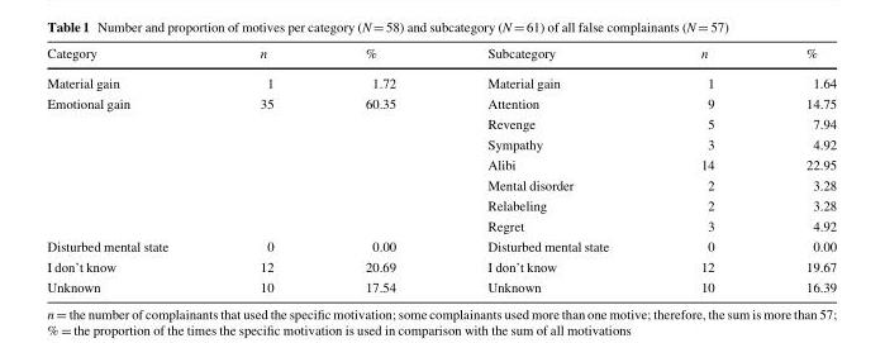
<table><thead><tr><td>Category</td><td>n</td><td>%</td><td>Subcategory</td><td>n</td><td>%</td></tr></thead><tbody><tr><td>Material gain</td><td>1</td><td>1.72</td><td>Material gain</td><td>1</td><td>1.64</td></tr><tr><td rowspan="7">Emotional gain</td><td>35</td><td>60.35</td><td>Attention</td><td>9</td><td>14.75</td></tr><tr><td></td><td></td><td>Revenge</td><td>5</td><td>7.94</td></tr><tr><td></td><td></td><td>Sympathy</td><td>3</td><td>4.92</td></tr><tr><td></td><td></td><td>Alibi</td><td>14</td><td>22.95</td></tr><tr><td></td><td></td><td>Mental disorder</td><td>2</td><td>3.28</td></tr><tr><td></td><td></td><td>Relabeling</td><td>2</td><td>3.28</td></tr><tr><td></td><td></td><td>Regret</td><td>3</td><td>4.92</td></tr><tr><td>Disturbed mental state</td><td>0</td><td>0.00</td><td>Disturbed mental state</td><td>0</td><td>0.00</td></tr><tr><td>I don’t know</td><td>12</td><td>20.69</td><td>I don’t know</td><td>12</td><td>19.67</td></tr><tr><td>Unknown</td><td>10</td><td>17.54</td><td>Unknown</td><td>10</td><td>16.39</td></tr></tbody></table>